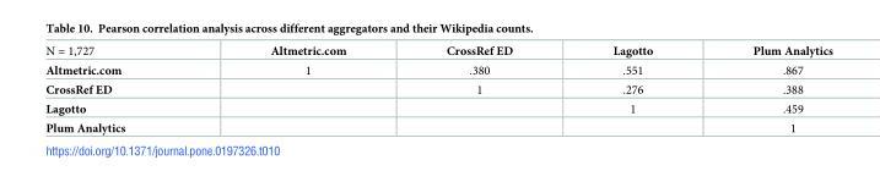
<table><tbody><tr><td>N = 1,727</td><td>Altmetric.com</td><td>CrossRef ED</td><td>Lagotto</td><td>Plum Analytics</td></tr><tr><td>Altmetric.com</td><td>1</td><td>.380</td><td>.551</td><td>.867</td></tr><tr><td>CrossRef ED</td><td></td><td>1</td><td>.276</td><td>.388</td></tr><tr><td>Lagotto</td><td></td><td></td><td>1</td><td>.459</td></tr><tr><td>Plum Analytics</td><td></td><td></td><td></td><td>1</td></tr></tbody></table>